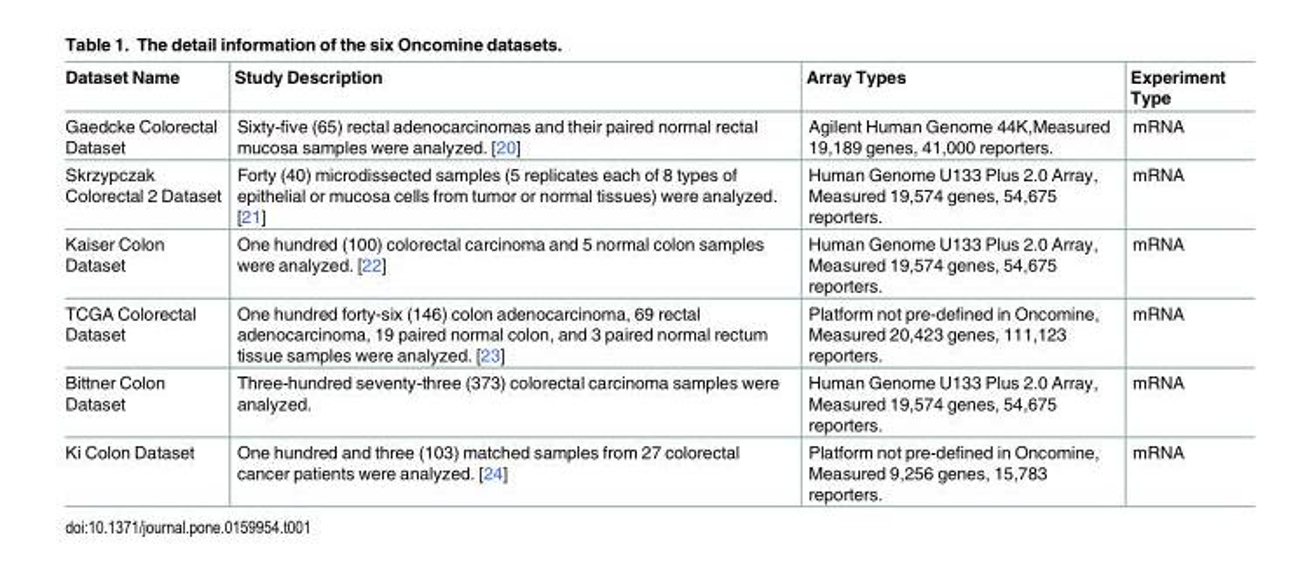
<table><thead><tr><td>Dataset Name</td><td>Study Description</td><td>Array Types</td><td>Experiment Type</td></tr></thead><tbody><tr><td>Gaedcke Colorectal Dataset</td><td>Sixty-five (65) rectal adenocarcinomas and their paired normal rectal mucosa samples were analyzed. [20]</td><td>Agilent Human Genome 44K,Measured 19,189 genes, 41,000 reporters.</td><td>mRNA</td></tr><tr><td>Skrzypczak Colorectal 2 Dataset</td><td>Forty (40) microdissected samples (5 replicates each of 8 types of epithelial or mucosa cells from tumor or normal tissues) were analyzed. [21]</td><td>Human Genome U133 Plus 2.0 Array, Measured 19,574 genes, 54,675 reporters.</td><td>mRNA</td></tr><tr><td>Kaiser Colon Dataset</td><td>One hundred (100) colorectal carcinoma and 5 normal colon samples were analyzed. [22]</td><td>Human Genome U133 Plus 2.0 Array, Measured 19,574 genes, 54,675 reporters.</td><td>mRNA</td></tr><tr><td>TCGA Colorectal Dataset</td><td>One hundred forty-six (146) colon adenocarcinoma, 69 rectal adenocarcinoma, 19 paired normal colon, and 3 paired normal rectum tissue samples were analyzed. [23]</td><td>Platform not pre-defined in Oncomine, Measured 20,423 genes, 111,123 reporters.</td><td>mRNA</td></tr><tr><td>Bittner Colon Dataset</td><td>Three-hundred seventy-three (373) colorectal carcinoma samples were analyzed.</td><td>Human Genome U133 Plus 2.0 Array, Measured 19,574 genes, 54,675 reporters.</td><td>mRNA</td></tr><tr><td>Ki Colon Dataset</td><td>One hundred and three (103) matched samples from 27 colorectal cancer patients were analyzed. [24]</td><td>Platform not pre-defined in Oncomine, Measured 9,256 genes, 15,783 reporters.</td><td>mRNA</td></tr></tbody></table>